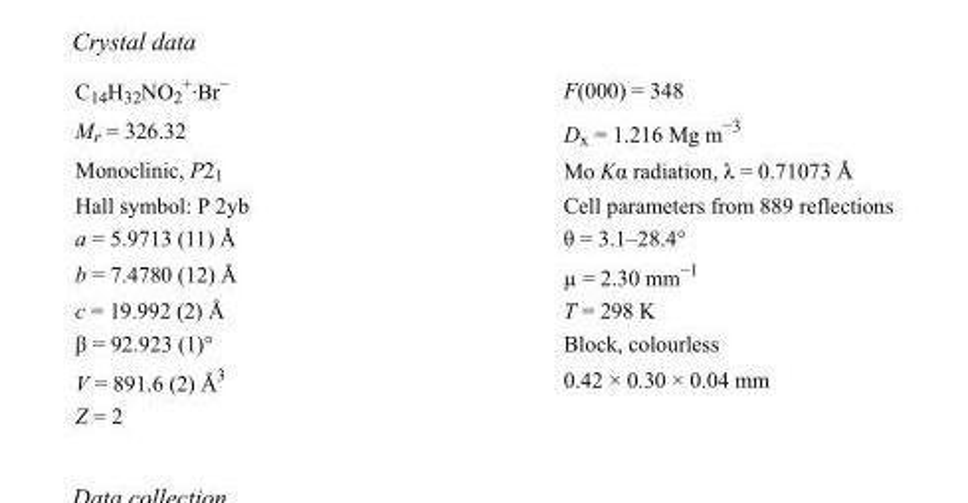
<table><tbody><tr><td>C<sub>14</sub>H<sub>32</sub>NO<sub>2</sub> <sup>+</sup>·Br<sup>−</sup></td><td>F(000) = 348</td></tr><tr><td>M<sub>r</sub> = 326.32</td><td>D<sub>x</sub> = 1.216 Mg m<sup>−3</sup></td></tr><tr><td>Monoclinic, P2<sub>1</sub></td><td>Mo Kα radiation, λ = 0.71073 Å</td></tr><tr><td>Hall symbol: P 2yb</td><td>Cell parameters from 889 reflections</td></tr><tr><td>a = 5.9713 (11) Å</td><td>θ = 3.1–28.4°</td></tr><tr><td>b = 7.4780 (12) Å</td><td>µ = 2.30 mm<sup>−1</sup></td></tr><tr><td>c = 19.992 (2) Å</td><td>T = 298 K</td></tr><tr><td>β = 92.923 (1)°</td><td>Block, colourless</td></tr><tr><td>V = 891.6 (2) Å<sup>3</sup></td><td>0.42 × 0.30 × 0.04 mm</td></tr><tr><td>Z = 2</td><td></td></tr></tbody></table>